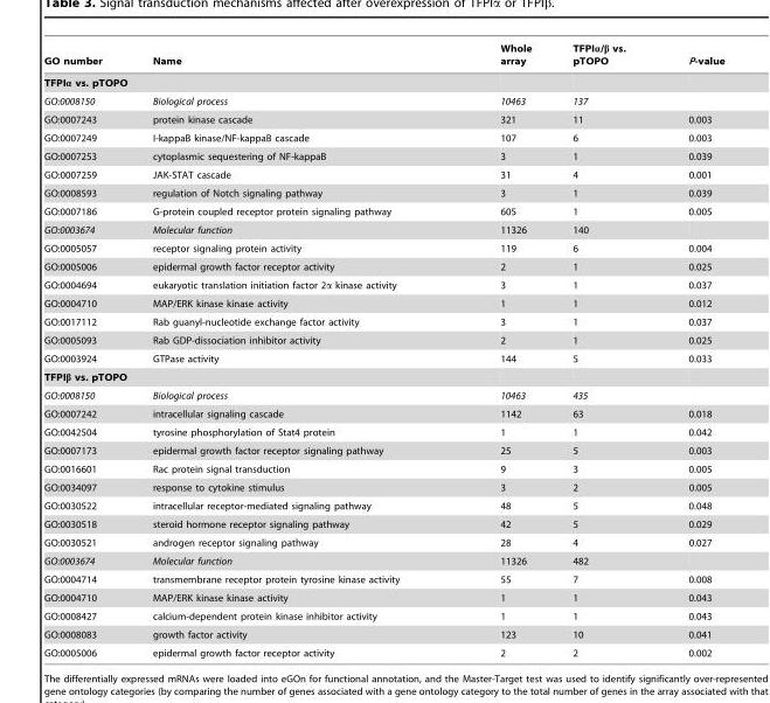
<table><thead><tr><td>GO number</td><td>Name</td><td>Whole array</td><td>TFPIα/β vs. pTOPO</td><td>P-value</td></tr></thead><tbody><tr><td colspan="5">TFPIα vs. pTOPO</td></tr><tr><td>GO:0008150</td><td>Biological process</td><td>10463</td><td>137</td><td></td></tr><tr><td>GO:0007243</td><td>protein kinase cascade</td><td>321</td><td>11</td><td>0.003</td></tr><tr><td>GO:0007249</td><td>I-kappaB kinase/NF-kappaB cascade</td><td>107</td><td>6</td><td>0.003</td></tr><tr><td>GO:0007253</td><td>cytoplasmic sequestering of NF-kappaB</td><td>3</td><td>1</td><td>0.039</td></tr><tr><td>GO:0007259</td><td>JAK-STAT cascade</td><td>31</td><td>4</td><td>0.001</td></tr><tr><td>GO:0008593</td><td>regulation of Notch signaling pathway</td><td>3</td><td>1</td><td>0.039</td></tr><tr><td>GO:0007186</td><td>G-protein coupled receptor protein signaling pathway</td><td>605</td><td>1</td><td>0.005</td></tr><tr><td>GO:0003674</td><td>Molecular function</td><td>11326</td><td>140</td><td></td></tr><tr><td>GO:0005057</td><td>receptor signaling protein activity</td><td>119</td><td>6</td><td>0.004</td></tr><tr><td>GO:0005006</td><td>epidermal growth factor receptor activity</td><td>2</td><td>1</td><td>0.025</td></tr><tr><td>GO:0004694</td><td>eukaryotic translation initiation factor 2α kinase activity</td><td>3</td><td>1</td><td>0.037</td></tr><tr><td>GO:0004710</td><td>MAP/ERK kinase kinase activity</td><td>1</td><td>1</td><td>0.012</td></tr><tr><td>GO:0017112</td><td>Rab guanyl-nucleotide exchange factor activity</td><td>3</td><td>1</td><td>0.037</td></tr><tr><td>GO:0005093</td><td>Rab GDP-dissociation inhibitor activity</td><td>2</td><td>1</td><td>0.025</td></tr><tr><td>GO:0003924</td><td>GTPase activity</td><td>144</td><td>5</td><td>0.033</td></tr><tr><td colspan="5">TFPIβ vs. pTOPO</td></tr><tr><td>GO:0008150</td><td>Biological process</td><td>10463</td><td>435</td><td></td></tr><tr><td>GO:0007242</td><td>intracellular signaling cascade</td><td>1142</td><td>63</td><td>0.018</td></tr><tr><td>GO:0042504</td><td>tyrosine phosphorylation of Stat4 protein</td><td>1</td><td>1</td><td>0.042</td></tr><tr><td>GO:0007173</td><td>epidermal growth factor receptor signaling pathway</td><td>25</td><td>5</td><td>0.003</td></tr><tr><td>GO:0016601</td><td>Rac protein signal transduction</td><td>9</td><td>3</td><td>0.005</td></tr><tr><td>GO:0034097</td><td>response to cytokine stimulus</td><td>3</td><td>2</td><td>0.005</td></tr><tr><td>GO:0030522</td><td>intracellular receptor-mediated signaling pathway</td><td>48</td><td>5</td><td>0.048</td></tr><tr><td>GO:0030518</td><td>steroid hormone receptor signaling pathway</td><td>42</td><td>5</td><td>0.029</td></tr><tr><td>GO:0030521</td><td>androgen receptor signaling pathway</td><td>28</td><td>4</td><td>0.027</td></tr><tr><td>GO:0003674</td><td>Molecular function</td><td>11326</td><td>482</td><td></td></tr><tr><td>GO:0004714</td><td>transmembrane receptor protein tyrosine kinase activity</td><td>55</td><td>7</td><td>0.008</td></tr><tr><td>GO:0004710</td><td>MAP/ERK kinase kinase activity</td><td>1</td><td>1</td><td>0.043</td></tr><tr><td>GO:0008427</td><td>calcium-dependent protein kinase inhibitor activity</td><td>1</td><td>1</td><td>0.043</td></tr><tr><td>GO:0008083</td><td>growth factor activity</td><td>123</td><td>10</td><td>0.041</td></tr><tr><td>GO:0005006</td><td>epidermal growth factor receptor activity</td><td>2</td><td>2</td><td>0.002</td></tr></tbody></table>